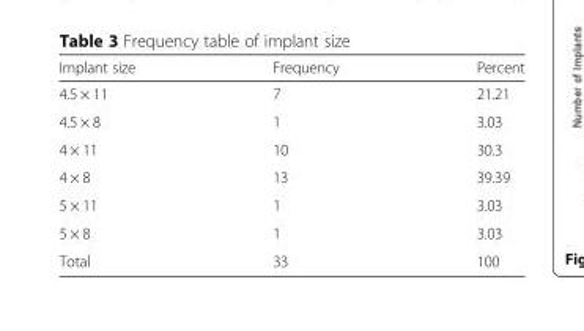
<table><thead><tr><td>Implant size</td><td>Frequency</td><td>Percent</td></tr></thead><tbody><tr><td>4.5 × 11</td><td>7</td><td>21.21</td></tr><tr><td>4.5 × 8</td><td>1</td><td>3.03</td></tr><tr><td>4 × 11</td><td>10</td><td>30.3</td></tr><tr><td>4 × 8</td><td>13</td><td>39.39</td></tr><tr><td>5 × 11</td><td>1</td><td>3.03</td></tr><tr><td>5 × 8</td><td>1</td><td>3.03</td></tr><tr><td>Total</td><td>33</td><td>100</td></tr></tbody></table>